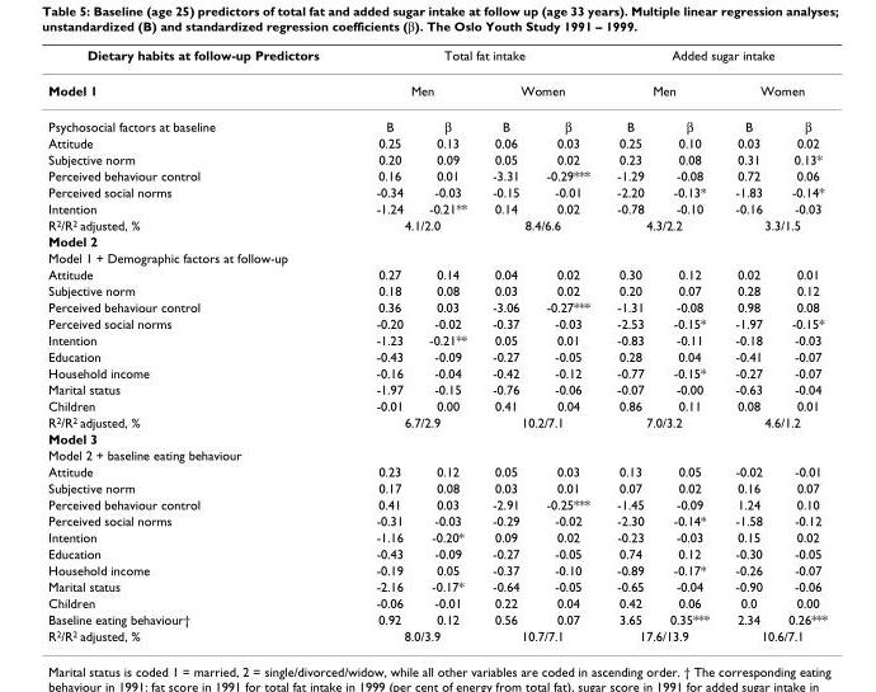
<table><thead><tr><td rowspan="3">Dietary habits at follow-up Predictors Model 1 Psychosocial factors at baseline</td><td colspan="4">Total fat intake</td><td colspan="4">Added sugar intake</td></tr><tr><td colspan="2">Men</td><td colspan="2">Women</td><td colspan="2">Men</td><td colspan="2">Women</td></tr><tr><td>B</td><td>β</td><td>B</td><td>β</td><td>B</td><td>β</td><td>B</td><td>β</td></tr></thead><tbody><tr><td>Attitude</td><td>0.25</td><td>0.13</td><td>0.06</td><td>0.03</td><td>0.25</td><td>0.10</td><td>0.03</td><td>0.02</td></tr><tr><td>Subjective norm</td><td>0.20</td><td>0.09</td><td>0.05</td><td>0.02</td><td>0.23</td><td>0.08</td><td>0.31</td><td>0.13*</td></tr><tr><td>Perceived behaviour control</td><td>0.16</td><td>0.01</td><td>-3.31</td><td>-0.29***</td><td>-1.29</td><td>-0.08</td><td>0.72</td><td>0.06</td></tr><tr><td>Perceived social norms</td><td>-0.34</td><td>-0.03</td><td>-0.15</td><td>-0.01</td><td>-2.20</td><td>-0.13*</td><td>-1.83</td><td>-0.14*</td></tr><tr><td>Intention</td><td>-1.24</td><td>-0.21**</td><td>0.14</td><td>0.02</td><td>-0.78</td><td>-0.10</td><td>-0.16</td><td>-0.03</td></tr><tr><td>R<sup>2</sup>/R<sup>2</sup> adjusted, %</td><td colspan="2">4.1/2.0</td><td colspan="2">8.4/6.6</td><td colspan="2">4.3/2.2</td><td colspan="2">3.3/1.5</td></tr><tr><td colspan="9">Model 2</td></tr><tr><td colspan="9">Model 1 + Demographic factors at follow-up</td></tr><tr><td>Attitude</td><td>0.27</td><td>0.14</td><td>0.04</td><td>0.02</td><td>0.30</td><td>0.12</td><td>0.02</td><td>0.01</td></tr><tr><td>Subjective norm</td><td>0.18</td><td>0.08</td><td>0.03</td><td>0.02</td><td>0.20</td><td>0.07</td><td>0.28</td><td>0.12</td></tr><tr><td>Perceived behaviour control</td><td>0.36</td><td>0.03</td><td>-3.06</td><td>-0.27***</td><td>-1.31</td><td>-0.08</td><td>0.98</td><td>0.08</td></tr><tr><td>Perceived social norms</td><td>-0.20</td><td>-0.02</td><td>-0.37</td><td>-0.03</td><td>-2.53</td><td>-0.15*</td><td>-1.97</td><td>-0.15*</td></tr><tr><td>Intention</td><td>-1.23</td><td>-0.21**</td><td>0.05</td><td>0.01</td><td>-0.83</td><td>-0.11</td><td>-0.18</td><td>-0.03</td></tr><tr><td>Education</td><td>-0.43</td><td>-0.09</td><td>-0.27</td><td>-0.05</td><td>0.28</td><td>0.04</td><td>-0.41</td><td>-0.07</td></tr><tr><td>Household income</td><td>-0.16</td><td>-0.04</td><td>-0.42</td><td>-0.12</td><td>-0.77</td><td>-0.15*</td><td>-0.27</td><td>-0.07</td></tr><tr><td>Marital status</td><td>-1.97</td><td>-0.15</td><td>-0.76</td><td>-0.06</td><td>-0.07</td><td>-0.00</td><td>-0.63</td><td>-0.04</td></tr><tr><td>Children</td><td>-0.01</td><td>0.00</td><td>0.41</td><td>0.04</td><td>0.86</td><td>0.11</td><td>0.08</td><td>0.01</td></tr><tr><td>R<sup>2</sup>/R<sup>2</sup> adjusted, %</td><td colspan="2">6.7/2.9</td><td colspan="2">10.2/7.1</td><td colspan="2">7.0/3.2</td><td colspan="2">4.6/1.2</td></tr><tr><td colspan="9">Model 3</td></tr><tr><td colspan="9">Model 2 + baseline eating behaviour</td></tr><tr><td>Attitude</td><td>0.23</td><td>0.12</td><td>0.05</td><td>0.03</td><td>0.13</td><td>0.05</td><td>-0.02</td><td>-0.01</td></tr><tr><td>Subjective norm</td><td>0.17</td><td>0.08</td><td>0.03</td><td>0.01</td><td>0.07</td><td>0.02</td><td>0.16</td><td>0.07</td></tr><tr><td>Perceived behaviour control</td><td>0.41</td><td>0.03</td><td>-2.91</td><td>-0.25***</td><td>-1.45</td><td>-0.09</td><td>1.24</td><td>0.10</td></tr><tr><td>Perceived social norms</td><td>-0.31</td><td>-0.03</td><td>-0.29</td><td>-0.02</td><td>-2.30</td><td>-0.14*</td><td>-1.58</td><td>-0.12</td></tr><tr><td>Intention</td><td>-1.16</td><td>-0.20*</td><td>0.09</td><td>0.02</td><td>-0.23</td><td>-0.03</td><td>0.15</td><td>0.02</td></tr><tr><td>Education</td><td>-0.43</td><td>-0.09</td><td>-0.27</td><td>-0.05</td><td>0.74</td><td>0.12</td><td>-0.30</td><td>-0.05</td></tr><tr><td>Household income</td><td>-0.19</td><td>0.05</td><td>-0.37</td><td>-0.10</td><td>-0.89</td><td>-0.17*</td><td>-0.26</td><td>-0.07</td></tr><tr><td>Marital status</td><td>-2.16</td><td>-0.17*</td><td>-0.64</td><td>-0.05</td><td>-0.65</td><td>-0.04</td><td>-0.90</td><td>-0.06</td></tr><tr><td>Children</td><td>-0.06</td><td>-0.01</td><td>0.22</td><td>0.04</td><td>0.42</td><td>0.06</td><td>0.0</td><td>0.00</td></tr><tr><td>Baseline eating behaviour†</td><td>0.92</td><td>0.12</td><td>0.56</td><td>0.07</td><td>3.65</td><td>0.35***</td><td>2.34</td><td>0.26***</td></tr><tr><td>R<sup>2</sup>/R<sup>2</sup> adjusted, %</td><td colspan="2">8.0/3.9</td><td colspan="2">10.7/7.1</td><td colspan="2">17.6/13.9</td><td colspan="2">10.6/7.1</td></tr></tbody></table>